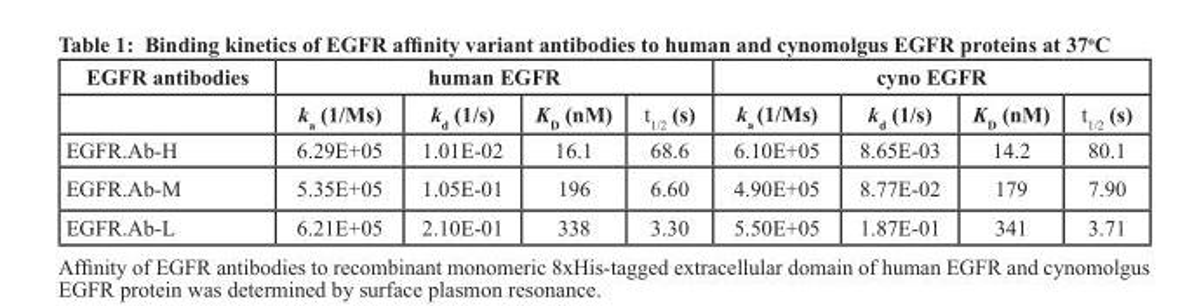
<table><thead><tr><td rowspan="2">EGFR antibodies</td><td colspan="4">human EGFR</td><td colspan="4">cyno EGFR</td></tr><tr><td>k<sub>a</sub> (1/Ms)</td><td>k<sub>d</sub> (1/s)</td><td>K<sub>D</sub> (nM)</td><td>t<sub>1/2</sub> (s)</td><td>k<sub>a</sub> (1/Ms)</td><td>k<sub>d</sub> (1/s)</td><td>K<sub>D</sub> (nM)</td><td>t<sub>1/2</sub> (s)</td></tr></thead><tbody><tr><td>EGFR.Ab-H</td><td>6.29E+05</td><td>1.01E-02</td><td>16.1</td><td>68.6</td><td>6.10E+05</td><td>8.65E-03</td><td>14.2</td><td>80.1</td></tr><tr><td>EGFR.Ab-M</td><td>5.35E+05</td><td>1.05E-01</td><td>196</td><td>6.60</td><td>4.90E+05</td><td>8.77E-02</td><td>179</td><td>7.90</td></tr><tr><td>EGFR.Ab-L</td><td>6.21E+05</td><td>2.10E-01</td><td>338</td><td>3.30</td><td>5.50E+05</td><td>1.87E-01</td><td>341</td><td>3.71</td></tr></tbody></table>